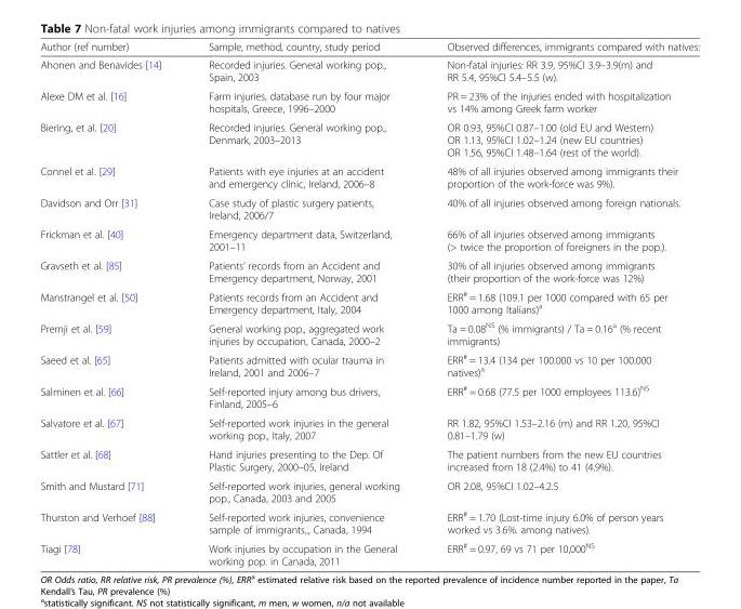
<table><thead><tr><td>Author (ref number)</td><td>Sample, method, country, study period</td><td>Observed differences, immigrants compared with natives:</td></tr></thead><tbody><tr><td>Ahonen and Benavides [14]</td><td>Recorded injuries. General working pop., Spain, 2003</td><td>Non-fatal injuries: RR 3.9, 95%CI 3.9–3.9(m) and RR 5.4, 95%CI 5.4–5.5 (w).</td></tr><tr><td>Alexe DM et al. [16]</td><td>Farm injuries, database run by four major hospitals, Greece, 1996–2000</td><td>PR = 23% of the injuries ended with hospitalization vs 14% among Greek farm worker</td></tr><tr><td>Biering, et al. [20]</td><td>Recorded injuries. General working pop., Denmark, 2003–2013</td><td>OR 0.93, 95%CI 0.87–1.00 (old EU and Western) OR 1.13, 95%CI 1.02–1.24 (new EU countries) OR 1.56, 95%CI 1.48–1.64 (rest of the world).</td></tr><tr><td>Connel et al. [29]</td><td>Patients with eye injuries at an accident and emergency clinic, Ireland, 2006–8</td><td>48% of all injuries observed among immigrants their proportion of the work-force was 9%).</td></tr><tr><td>Davidson and Orr [31]</td><td>Case study of plastic surgery patients, Ireland, 2006/7</td><td>40% of all injuries observed among foreign nationals.</td></tr><tr><td>Frickman et al. [40]</td><td>Emergency department data, Switzerland, 2001–11</td><td>66% of all injuries observed among immigrants (&gt; twice the proportion of foreigners in the pop.).</td></tr><tr><td>Gravseth et al. [85]</td><td>Patients’ records from an Accident and Emergency department, Norway, 2001</td><td>30% of all injuries observed among immigrants (their proportion of the work-force was 12%)</td></tr><tr><td>Manstrangel et al. [50]</td><td>Patients records from an Accident and Emergency department, Italy, 2004</td><td>ERR<sup>#</sup> = 1.68 (109.1 per 1000 compared with 65 per 1000 among Italians)<sup>a</sup></td></tr><tr><td>Premji et al. [59]</td><td>General working pop., aggregated work injuries by occupation, Canada, 2000–2</td><td>Ta = 0.08<sup>NS</sup> (% immigrants) / Ta = 0.16<sup>a</sup> (% recent immigrants)</td></tr><tr><td>Saeed et al. [65]</td><td>Patients admitted with ocular trauma in Ireland, 2001 and 2006–7</td><td>ERR<sup>#</sup> = 13.4 (134 per 100.000 vs 10 per 100.000 natives)<sup>a</sup></td></tr><tr><td>Salminen et al. [66]</td><td>Self-reported injury among bus drivers, Finland, 2005–6</td><td>ERR<sup>#</sup> = 0.68 (77.5 per 1000 employees 113.6)<sup>NS</sup></td></tr><tr><td>Salvatore et al. [67]</td><td>Self-reported work injuries in the general working pop., Italy, 2007</td><td>RR 1.82, 95%CI 1.53–2.16 (m) and RR 1.20, 95%CI 0.81–1.79 (w)</td></tr><tr><td>Sattler et al. [68]</td><td>Hand injuries presenting to the Dep. Of Plastic Surgery, 2000–05, Ireland</td><td>The patient numbers from the new EU countries increased from 18 (2.4%) to 41 (4.9%).</td></tr><tr><td>Smith and Mustard [71]</td><td>Self-reported work injuries, general working pop., Canada, 2003 and 2005</td><td>OR 2.08, 95%CI 1.02–4.2.5</td></tr><tr><td>Thurston and Verhoef [88]</td><td>Self-reported work injuries, convenience sample of immigrants,., Canada, 1994</td><td>ERR<sup>#</sup> = 1.70 (Lost-time injury 6.0% of person years worked vs 3.6%. among natives).</td></tr><tr><td>Tiagi [78]</td><td>Work injuries by occupation in the General working pop. in Canada, 2011</td><td>ERR<sup>#</sup> = 0.97, 69 vs 71 per 10,000<sup>NS</sup></td></tr></tbody></table>